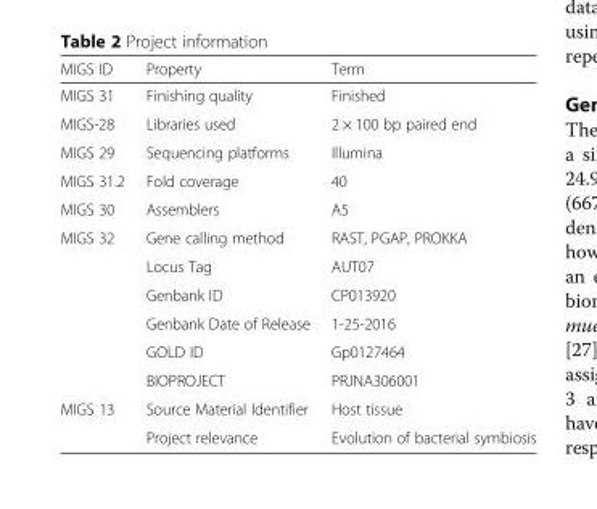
<table><thead><tr><td>MIGS ID</td><td>Property</td><td>Term</td></tr></thead><tbody><tr><td>MIGS 31</td><td>Finishing quality</td><td>Finished</td></tr><tr><td>MIGS-28</td><td>Libraries used</td><td>2 × 100 bp paired end</td></tr><tr><td>MIGS 29</td><td>Sequencing platforms</td><td>Illumina</td></tr><tr><td>MIGS 31.2</td><td>Fold coverage</td><td>40</td></tr><tr><td>MIGS 30</td><td>Assemblers</td><td>A5</td></tr><tr><td rowspan="6">MIGS 32</td><td>Gene calling method</td><td>RAST, PGAP, PROKKA</td></tr><tr><td>Locus Tag</td><td>AUT07</td></tr><tr><td>Genbank ID</td><td>CP013920</td></tr><tr><td>Genbank Date of Release</td><td>1-25-2016</td></tr><tr><td>GOLD ID</td><td>Gp0127464</td></tr><tr><td>BIOPROJECT</td><td>PRJNA306001</td></tr><tr><td rowspan="2">MIGS 13</td><td>Source Material Identifier</td><td>Host tissue</td></tr><tr><td>Project relevance</td><td>Evolution of bacterial symbiosis</td></tr></tbody></table>